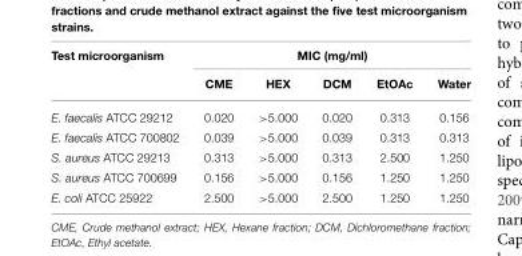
<table><thead><tr><td rowspan="2">Test microorganism</td><td colspan="5">MIC (mg/ml)</td></tr><tr><td>CME</td><td>HEX</td><td>DCM</td><td>EtOAc</td><td>Water</td></tr></thead><tbody><tr><td>E. faecalis ATCC 29212</td><td>0.020</td><td>&gt;5.000</td><td>0.020</td><td>0.313</td><td>0.156</td></tr><tr><td>E. faecalis ATCC 700802</td><td>0.039</td><td>&gt;5.000</td><td>0.039</td><td>0.313</td><td>0.313</td></tr><tr><td>S. aureus ATCC 29213</td><td>0.313</td><td>&gt;5.000</td><td>0.313</td><td>2.500</td><td>1.250</td></tr><tr><td>S. aureus ATCC 700699</td><td>0.156</td><td>&gt;5.000</td><td>0.156</td><td>1.250</td><td>1.250</td></tr><tr><td>E. coli ATCC 25922</td><td>2.500</td><td>&gt;5.000</td><td>2.500</td><td>1.250</td><td>1.250</td></tr></tbody></table>